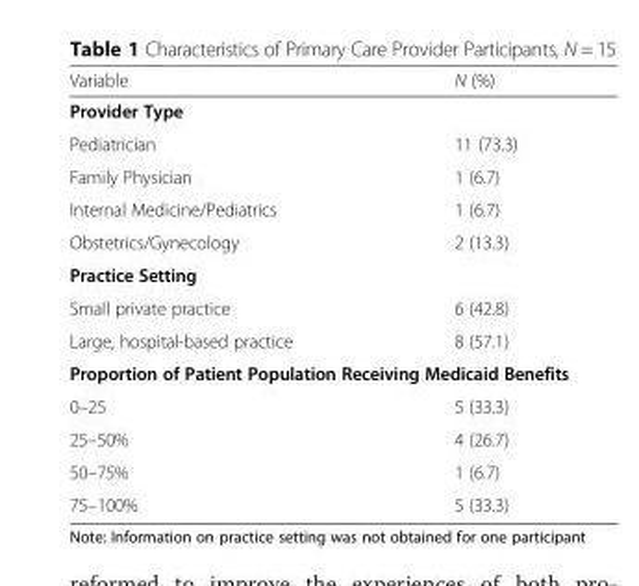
<table><thead><tr><td>Variable</td><td>N (%)</td></tr></thead><tbody><tr><td colspan="2">Provider Type</td></tr><tr><td>Pediatrician</td><td>11 (73.3)</td></tr><tr><td>Family Physician</td><td>1 (6.7)</td></tr><tr><td>Internal Medicine/Pediatrics</td><td>1 (6.7)</td></tr><tr><td>Obstetrics/Gynecology</td><td>2 (13.3)</td></tr><tr><td colspan="2">Practice Setting</td></tr><tr><td>Small private practice</td><td>6 (42.8)</td></tr><tr><td>Large, hospital-based practice</td><td>8 (57.1)</td></tr><tr><td colspan="2">Proportion of Patient Population Receiving Medicaid Benefits</td></tr><tr><td>0–25</td><td>5 (33.3)</td></tr><tr><td>25–50%</td><td>4 (26.7)</td></tr><tr><td>50–75%</td><td>1 (6.7)</td></tr><tr><td>75–100%</td><td>5 (33.3)</td></tr></tbody></table>